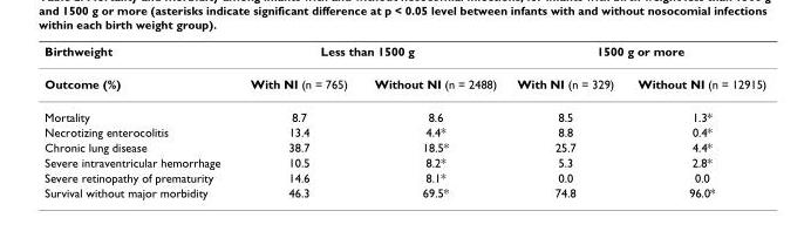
<table><thead><tr><td rowspan="2">Birthweight Outcome (%)</td><td colspan="2">Less than 1500 g</td><td colspan="2">1500 g or more</td></tr><tr><td>With NI (n = 765)</td><td>Without NI (n = 2488)</td><td>With NI (n = 329)</td><td>Without NI (n = 12915)</td></tr></thead><tbody><tr><td>Mortality</td><td>8.7</td><td>8.6</td><td>8.5</td><td>1.3*</td></tr><tr><td>Necrotizing enterocolitis</td><td>13.4</td><td>4.4*</td><td>8.8</td><td>0.4*</td></tr><tr><td>Chronic lung disease</td><td>38.7</td><td>18.5*</td><td>25.7</td><td>4.4*</td></tr><tr><td>Severe intraventricular hemorrhage</td><td>10.5</td><td>8.2*</td><td>5.3</td><td>2.8*</td></tr><tr><td>Severe retinopathy of prematurity</td><td>14.6</td><td>8.1*</td><td>0.0</td><td>0.0</td></tr><tr><td>Survival without major morbidity</td><td>46.3</td><td>69.5*</td><td>74.8</td><td>96.0*</td></tr></tbody></table>